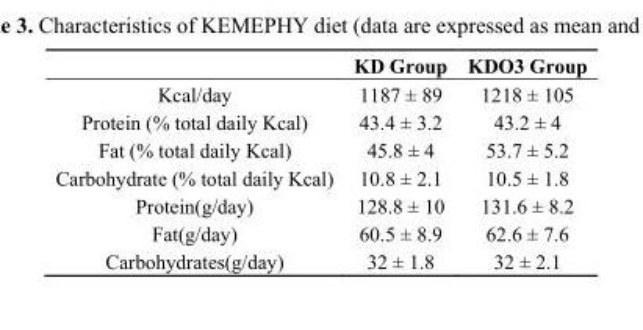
<table><thead><tr><td></td><td>KD Group</td><td>KDO3 Group</td></tr></thead><tbody><tr><td>Kcal/day</td><td>1187 ± 89</td><td>1218 ± 105</td></tr><tr><td>Protein (% total daily Kcal)</td><td>43.4 ± 3.2</td><td>43.2 ± 4</td></tr><tr><td>Fat (% total daily Kcal)</td><td>45.8 ± 4</td><td>53.7 ± 5.2</td></tr><tr><td>Carbohydrate (% total daily Kcal)</td><td>10.8 ± 2.1</td><td>10.5 ± 1.8</td></tr><tr><td>Protein(g/day)</td><td>128.8 ± 10</td><td>131.6 ± 8.2</td></tr><tr><td>Fat(g/day)</td><td>60.5 ± 8.9</td><td>62.6 ± 7.6</td></tr><tr><td>Carbohydrates(g/day)</td><td>32 ± 1.8</td><td>32 ± 2.1</td></tr></tbody></table>